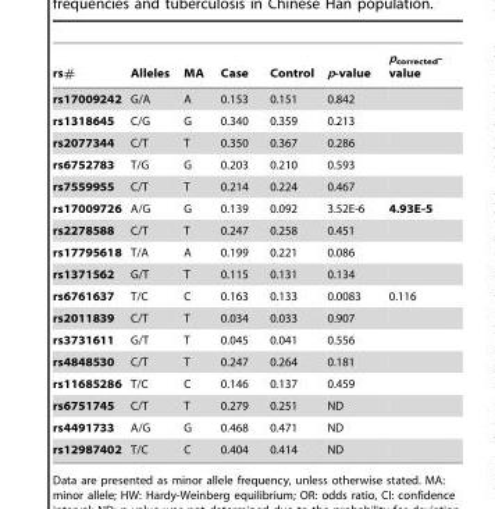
<table><thead><tr><td>rs#</td><td>Alleles</td><td>MA</td><td>Case</td><td>Control</td><td>p-value</td><td>p<sub>corrected</sub>- value</td></tr></thead><tbody><tr><td>rs17009242</td><td>G/A</td><td>A</td><td>0.153</td><td>0.151</td><td>0.842</td><td></td></tr><tr><td>rs1318645</td><td>C/G</td><td>G</td><td>0.340</td><td>0.359</td><td>0.213</td><td></td></tr><tr><td>rs2077344</td><td>C/T</td><td>T</td><td>0.350</td><td>0.367</td><td>0.286</td><td></td></tr><tr><td>rs6752783</td><td>T/G</td><td>G</td><td>0.203</td><td>0.210</td><td>0.593</td><td></td></tr><tr><td>rs7559955</td><td>C/T</td><td>T</td><td>0.214</td><td>0.224</td><td>0.467</td><td></td></tr><tr><td>rs17009726</td><td>A/G</td><td>G</td><td>0.139</td><td>0.092</td><td>3.52E-6</td><td>4.93E-5</td></tr><tr><td>rs2278588</td><td>C/T</td><td>T</td><td>0.247</td><td>0.258</td><td>0.451</td><td></td></tr><tr><td>rs17795618</td><td>T/A</td><td>A</td><td>0.199</td><td>0.221</td><td>0.086</td><td></td></tr><tr><td>rs1371562</td><td>G/T</td><td>T</td><td>0.115</td><td>0.131</td><td>0.134</td><td></td></tr><tr><td>rs6761637</td><td>T/C</td><td>C</td><td>0.163</td><td>0.133</td><td>0.0083</td><td>0.116</td></tr><tr><td>rs2011839</td><td>C/T</td><td>T</td><td>0.034</td><td>0.033</td><td>0.907</td><td></td></tr><tr><td>rs3731611</td><td>G/T</td><td>T</td><td>0.045</td><td>0.041</td><td>0.556</td><td></td></tr><tr><td>rs4848530</td><td>C/T</td><td>T</td><td>0.247</td><td>0.264</td><td>0.181</td><td></td></tr><tr><td>rs11685286</td><td>T/C</td><td>C</td><td>0.146</td><td>0.137</td><td>0.459</td><td></td></tr><tr><td>rs6751745</td><td>C/T</td><td>T</td><td>0.279</td><td>0.251</td><td>ND</td><td></td></tr><tr><td>rs4491733</td><td>A/G</td><td>G</td><td>0.468</td><td>0.471</td><td>ND</td><td></td></tr><tr><td>rs12987402</td><td>T/C</td><td>C</td><td>0.404</td><td>0.414</td><td>ND</td><td></td></tr></tbody></table>